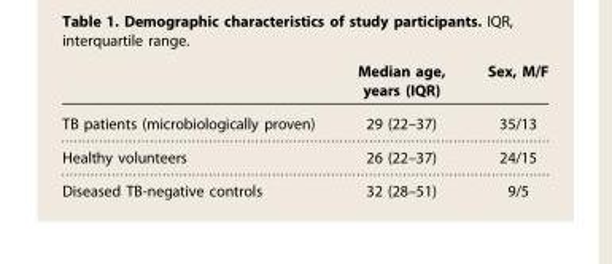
<table><thead><tr><td></td><td>Median age, years (IQR)</td><td>Sex, M/F</td></tr></thead><tbody><tr><td>TB patients (microbiologically proven)</td><td>29 (22–37)</td><td>35/13</td></tr><tr><td>Healthy volunteers</td><td>26 (22–37)</td><td>24/15</td></tr><tr><td>Diseased TB-negative controls</td><td>32 (28–51)</td><td>9/5</td></tr></tbody></table>